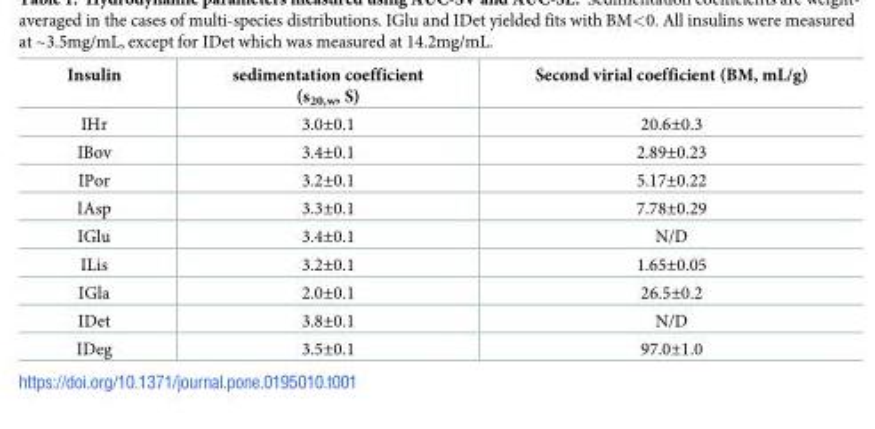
<table><thead><tr><td>Insulin</td><td>sedimentation coefficient (s<sub>20,w</sub>, S)</td><td>Second virial coefficient (BM, mL/g)</td></tr></thead><tbody><tr><td>IHr</td><td>3.0±0.1</td><td>20.6±0.3</td></tr><tr><td>IBov</td><td>3.4±0.1</td><td>2.89±0.23</td></tr><tr><td>IPor</td><td>3.2±0.1</td><td>5.17±0.22</td></tr><tr><td>IAsp</td><td>3.3±0.1</td><td>7.78±0.29</td></tr><tr><td>IGlu</td><td>3.4±0.1</td><td>N/D</td></tr><tr><td>ILis</td><td>3.2±0.1</td><td>1.65±0.05</td></tr><tr><td>IGla</td><td>2.0±0.1</td><td>26.5±0.2</td></tr><tr><td>IDet</td><td>3.8±0.1</td><td>N/D</td></tr><tr><td>IDeg</td><td>3.5±0.1</td><td>97.0±1.0</td></tr></tbody></table>